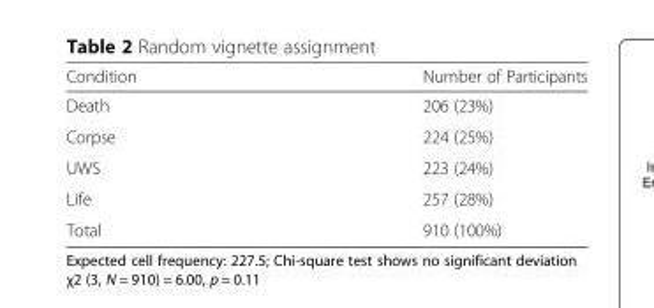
<table><thead><tr><td>Condition</td><td>Number of Participants</td></tr></thead><tbody><tr><td>Death</td><td>206 (23%)</td></tr><tr><td>Corpse</td><td>224 (25%)</td></tr><tr><td>UWS</td><td>223 (24%)</td></tr><tr><td>Life</td><td>257 (28%)</td></tr><tr><td>Total</td><td>910 (100%)</td></tr></tbody></table>